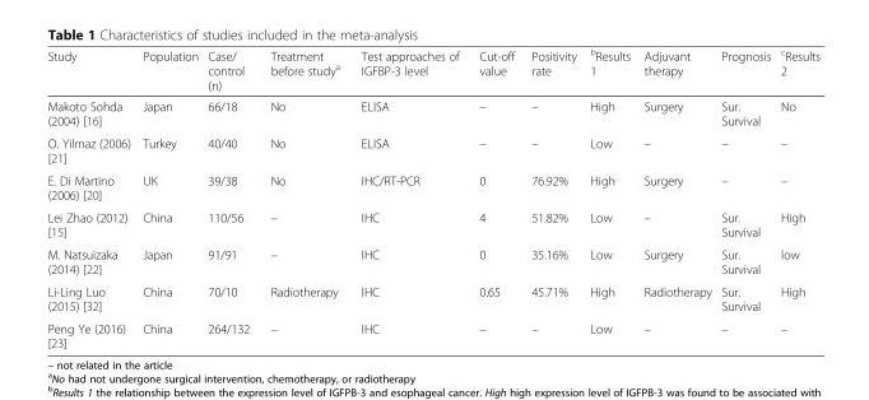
<table><thead><tr><td>Study</td><td>Population</td><td>Case/ control (n)</td><td>Treatment before study<sup>a</sup></td><td>Test approaches of IGFBP-3 level</td><td>Cut-off value</td><td>Positivity rate</td><td><sup>b</sup>Results 1</td><td>Adjuvant therapy</td><td>Prognosis</td><td><sup>c</sup>Results 2</td></tr></thead><tbody><tr><td>Makoto Sohda (2004) [16]</td><td>Japan</td><td>66/18</td><td>No</td><td>ELISA</td><td>–</td><td>–</td><td>High</td><td>Surgery</td><td>Sur. Survival</td><td>No</td></tr><tr><td>O. Yilmaz (2006) [21]</td><td>Turkey</td><td>40/40</td><td>No</td><td>ELISA</td><td>–</td><td>–</td><td>Low</td><td>–</td><td>–</td><td>–</td></tr><tr><td>E. Di Martino (2006) [20]</td><td>UK</td><td>39/38</td><td>No</td><td>IHC/RT-PCR</td><td>0</td><td>76.92%</td><td>High</td><td>Surgery</td><td>–</td><td>–</td></tr><tr><td>Lei Zhao (2012) [15]</td><td>China</td><td>110/56</td><td>–</td><td>IHC</td><td>4</td><td>51.82%</td><td>Low</td><td>–</td><td>Sur. Survival</td><td>High</td></tr><tr><td>M. Natsuizaka (2014) [22]</td><td>Japan</td><td>91/91</td><td>–</td><td>IHC</td><td>0</td><td>35.16%</td><td>Low</td><td>Surgery</td><td>Sur. Survival</td><td>low</td></tr><tr><td>Li-Ling Luo (2015) [32]</td><td>China</td><td>70/10</td><td>Radiotherapy</td><td>IHC</td><td>0.65</td><td>45.71%</td><td>High</td><td>Radiotherapy</td><td>Sur. Survival</td><td>High</td></tr><tr><td>Peng Ye (2016) [23]</td><td>China</td><td>264/132</td><td>–</td><td>IHC</td><td>–</td><td>–</td><td>Low</td><td>–</td><td>–</td><td>–</td></tr></tbody></table>